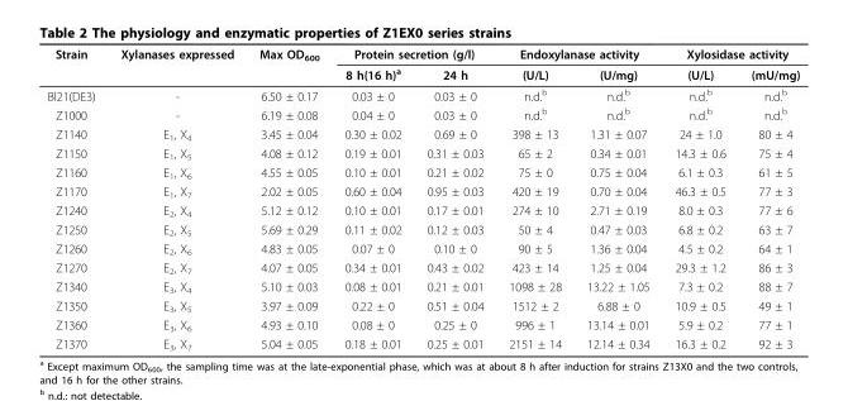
<table><thead><tr><td rowspan="2">Strain</td><td rowspan="2">Xylanases expressed</td><td rowspan="2">Max OD<sub>600</sub></td><td colspan="2">Protein secretion (g/l)</td><td colspan="2">Endoxylanase activity</td><td colspan="2">Xylosidase activity</td></tr><tr><td>8 h(16 h)<sup>a</sup></td><td>24 h</td><td>(U/L)</td><td>(U/mg)</td><td>(U/L)</td><td>(mU/mg)</td></tr></thead><tbody><tr><td>Bl21(DE3)</td><td>-</td><td>6.50 ± 0.17</td><td>0.03 ± 0</td><td>0.03 ± 0</td><td>n.d.<sup>b</sup></td><td>n.d.<sup>b</sup></td><td>n.d.<sup>b</sup></td><td>n.d.<sup>b</sup></td></tr><tr><td>Z1000</td><td>-</td><td>6.19 ± 0.08</td><td>0.04 ± 0</td><td>0.03 ± 0</td><td>n.d.<sup>b</sup></td><td>n.d.<sup>b</sup></td><td>n.d.<sup>b</sup></td><td>n.d.<sup>b</sup></td></tr><tr><td>Z1140</td><td>E<sub>1</sub>, X<sub>4</sub></td><td>3.45 ± 0.04</td><td>0.30 ± 0.02</td><td>0.69 ± 0</td><td>398 ± 13</td><td>1.31 ± 0.07</td><td>24 ± 1.0</td><td>80 ± 4</td></tr><tr><td>Z1150</td><td>E<sub>1</sub>, X<sub>5</sub></td><td>4.08 ± 0.12</td><td>0.19 ± 0.01</td><td>0.31 ± 0.03</td><td>65 ± 2</td><td>0.34 ± 0.01</td><td>14.3 ± 0.6</td><td>75 ± 4</td></tr><tr><td>Z1160</td><td>E<sub>1</sub>, X<sub>6</sub></td><td>4.55 ± 0.05</td><td>0.10 ± 0.01</td><td>0.21 ± 0.02</td><td>75 ± 0</td><td>0.75 ± 0.04</td><td>6.1 ± 0.3</td><td>61 ± 5</td></tr><tr><td>Z1170</td><td>E<sub>1</sub>, X<sub>7</sub></td><td>2.02 ± 0.05</td><td>0.60 ± 0.04</td><td>0.95 ± 0.03</td><td>420 ± 19</td><td>0.70 ± 0.04</td><td>46.3 ± 0.5</td><td>77 ± 3</td></tr><tr><td>Z1240</td><td>E<sub>2</sub>, X<sub>4</sub></td><td>5.12 ± 0.12</td><td>0.10 ± 0.01</td><td>0.17 ± 0.01</td><td>274 ± 10</td><td>2.71 ± 0.19</td><td>8.0 ± 0.3</td><td>77 ± 6</td></tr><tr><td>Z1250</td><td>E<sub>2</sub>, X<sub>5</sub></td><td>5.69 ± 0.29</td><td>0.11 ± 0.02</td><td>0.12 ± 0.03</td><td>50 ± 4</td><td>0.47 ± 0.03</td><td>6.8 ± 0.2</td><td>63 ± 7</td></tr><tr><td>Z1260</td><td>E<sub>2</sub>, X<sub>6</sub></td><td>4.83 ± 0.05</td><td>0.07 ± 0</td><td>0.10 ± 0</td><td>90 ± 5</td><td>1.36 ± 0.04</td><td>4.5 ± 0.2</td><td>64 ± 1</td></tr><tr><td>Z1270</td><td>E<sub>2</sub>, X<sub>7</sub></td><td>4.07 ± 0.05</td><td>0.34 ± 0.01</td><td>0.43 ± 0.02</td><td>423 ± 14</td><td>1.25 ± 0.04</td><td>29.3 ± 1.2</td><td>86 ± 3</td></tr><tr><td>Z1340</td><td>E<sub>3</sub>, X<sub>4</sub></td><td>5.10 ± 0.03</td><td>0.08 ± 0.01</td><td>0.21 ± 0.01</td><td>1098 ± 28</td><td>13.22 ± 1.05</td><td>7.3 ± 0.2</td><td>88 ± 7</td></tr><tr><td>Z1350</td><td>E<sub>3</sub>, X<sub>5</sub></td><td>3.97 ± 0.09</td><td>0.22 ± 0</td><td>0.51 ± 0.04</td><td>1512 ± 2</td><td>6.88 ± 0</td><td>10.9 ± 0.5</td><td>49 ± 1</td></tr><tr><td>Z1360</td><td>E<sub>3</sub>, X<sub>6</sub></td><td>4.93 ± 0.10</td><td>0.08 ± 0</td><td>0.25 ± 0</td><td>996 ± 1</td><td>13.14 ± 0.01</td><td>5.9 ± 0.2</td><td>77 ± 1</td></tr><tr><td>Z1370</td><td>E<sub>3</sub>, X<sub>7</sub></td><td>5.04 ± 0.05</td><td>0.18 ± 0.01</td><td>0.25 ± 0.01</td><td>2151 ± 14</td><td>12.14 ± 0.34</td><td>16.3 ± 0.2</td><td>92 ± 3</td></tr></tbody></table>